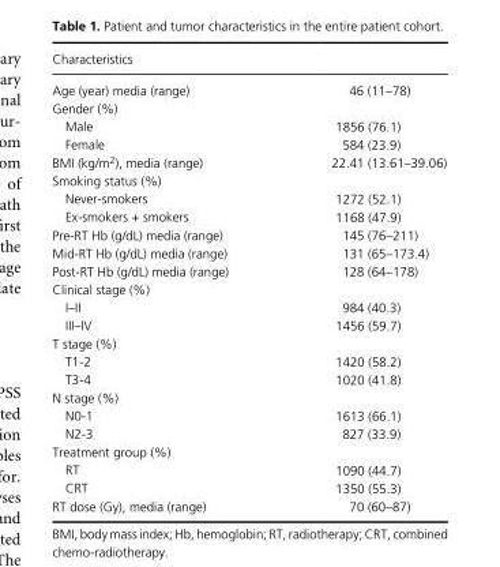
<table><thead><tr><td>Characteristics</td><td></td></tr></thead><tbody><tr><td>Age (year) media (range)</td><td>46 (11–78)</td></tr><tr><td colspan="2">Gender (%)</td></tr><tr><td>Male</td><td>1856 (76.1)</td></tr><tr><td>Female</td><td>584 (23.9)</td></tr><tr><td>BMI (kg/m<sup>2</sup>), media (range)</td><td>22.41 (13.61–39.06)</td></tr><tr><td colspan="2">Smoking status (%)</td></tr><tr><td>Never- smokers</td><td>1272 (52.1)</td></tr><tr><td>Ex- smokers + smokers</td><td>1168 (47.9)</td></tr><tr><td>Pre- RT Hb (g/dL) media (range)</td><td>145 (76–211)</td></tr><tr><td>Mid- RT Hb (g/dL) media (range)</td><td>131 (65–173.4)</td></tr><tr><td>Post- RT Hb (g/dL) media (range)</td><td>128 (64–178)</td></tr><tr><td colspan="2">Clinical stage (%)</td></tr><tr><td>I–II</td><td>984 (40.3)</td></tr><tr><td>III–IV</td><td>1456 (59.7)</td></tr><tr><td colspan="2">T stage (%)</td></tr><tr><td>T1- 2</td><td>1420 (58.2)</td></tr><tr><td>T3- 4</td><td>1020 (41.8)</td></tr><tr><td colspan="2">N stage (%)</td></tr><tr><td>N0- 1</td><td>1613 (66.1)</td></tr><tr><td>N2- 3</td><td>827 (33.9)</td></tr><tr><td colspan="2">Treatment group (%)</td></tr><tr><td>RT</td><td>1090 (44.7)</td></tr><tr><td>CRT</td><td>1350 (55.3)</td></tr><tr><td>RT dose (Gy), media (range)</td><td>70 (60–87)</td></tr></tbody></table>